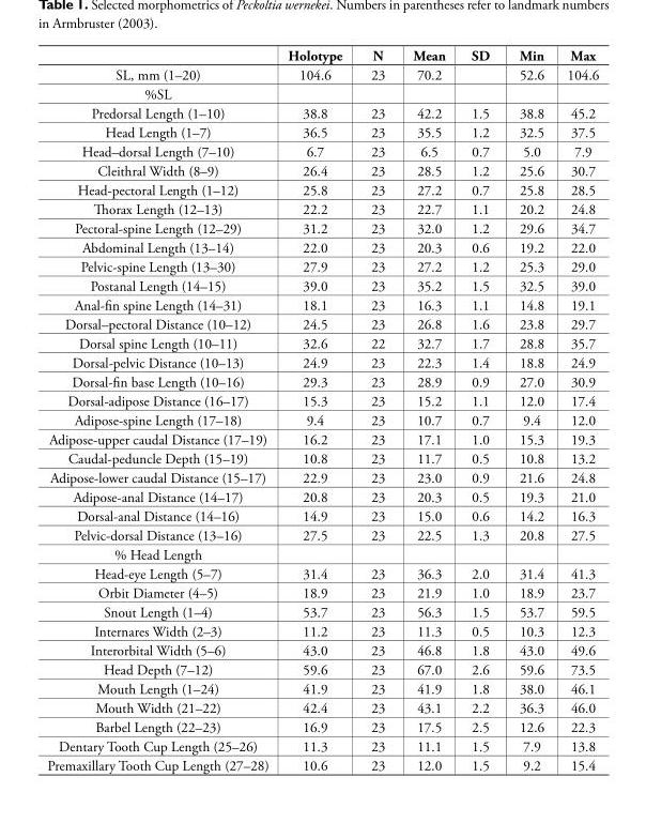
<table><thead><tr><td></td><td>Holotype</td><td>N</td><td>Mean</td><td>SD</td><td>Min</td><td>Max</td></tr></thead><tbody><tr><td>SL, mm (1–20)</td><td>104.6</td><td>23</td><td>70.2</td><td></td><td>52.6</td><td>104.6</td></tr><tr><td colspan="7">%SL</td></tr><tr><td>Predorsal Length (1–10)</td><td>38.8</td><td>23</td><td>42.2</td><td>1.5</td><td>38.8</td><td>45.2</td></tr><tr><td>Head Length (1–7)</td><td>36.5</td><td>23</td><td>35.5</td><td>1.2</td><td>32.5</td><td>37.5</td></tr><tr><td>Head–dorsal Length (7–10)</td><td>6.7</td><td>23</td><td>6.5</td><td>0.7</td><td>5.0</td><td>7.9</td></tr><tr><td>Cleithral Width (8–9)</td><td>26.4</td><td>23</td><td>28.5</td><td>1.2</td><td>25.6</td><td>30.7</td></tr><tr><td>Head-pectoral Length (1–12)</td><td>25.8</td><td>23</td><td>27.2</td><td>0.7</td><td>25.8</td><td>28.5</td></tr><tr><td>Thorax Length (12–13)</td><td>22.2</td><td>23</td><td>22.7</td><td>1.1</td><td>20.2</td><td>24.8</td></tr><tr><td>Pectoral-spine Length (12–29)</td><td>31.2</td><td>23</td><td>32.0</td><td>1.2</td><td>29.6</td><td>34.7</td></tr><tr><td>Abdominal Length (13–14)</td><td>22.0</td><td>23</td><td>20.3</td><td>0.6</td><td>19.2</td><td>22.0</td></tr><tr><td>Pelvic-spine Length (13–30)</td><td>27.9</td><td>23</td><td>27.2</td><td>1.2</td><td>25.3</td><td>29.0</td></tr><tr><td>Postanal Length (14–15)</td><td>39.0</td><td>23</td><td>35.2</td><td>1.5</td><td>32.5</td><td>39.0</td></tr><tr><td>Anal-fin spine Length (14–31)</td><td>18.1</td><td>23</td><td>16.3</td><td>1.1</td><td>14.8</td><td>19.1</td></tr><tr><td>Dorsal–pectoral Distance (10–12)</td><td>24.5</td><td>23</td><td>26.8</td><td>1.6</td><td>23.8</td><td>29.7</td></tr><tr><td>Dorsal spine Length (10–11)</td><td>32.6</td><td>22</td><td>32.7</td><td>1.7</td><td>28.8</td><td>35.7</td></tr><tr><td>Dorsal-pelvic Distance (10–13)</td><td>24.9</td><td>23</td><td>22.3</td><td>1.4</td><td>18.8</td><td>24.9</td></tr><tr><td>Dorsal-fin base Length (10–16)</td><td>29.3</td><td>23</td><td>28.9</td><td>0.9</td><td>27.0</td><td>30.9</td></tr><tr><td>Dorsal-adipose Distance (16–17)</td><td>15.3</td><td>23</td><td>15.2</td><td>1.1</td><td>12.0</td><td>17.4</td></tr><tr><td>Adipose-spine Length (17–18)</td><td>9.4</td><td>23</td><td>10.7</td><td>0.7</td><td>9.4</td><td>12.0</td></tr><tr><td>Adipose-upper caudal Distance (17–19)</td><td>16.2</td><td>23</td><td>17.1</td><td>1.0</td><td>15.3</td><td>19.3</td></tr><tr><td>Caudal-peduncle Depth (15–19)</td><td>10.8</td><td>23</td><td>11.7</td><td>0.5</td><td>10.8</td><td>13.2</td></tr><tr><td>Adipose-lower caudal Distance (15–17)</td><td>22.9</td><td>23</td><td>23.0</td><td>0.9</td><td>21.6</td><td>24.8</td></tr><tr><td>Adipose-anal Distance (14–17)</td><td>20.8</td><td>23</td><td>20.3</td><td>0.5</td><td>19.3</td><td>21.0</td></tr><tr><td>Dorsal-anal Distance (14–16)</td><td>14.9</td><td>23</td><td>15.0</td><td>0.6</td><td>14.2</td><td>16.3</td></tr><tr><td>Pelvic-dorsal Distance (13–16)</td><td>27.5</td><td>23</td><td>22.5</td><td>1.3</td><td>20.8</td><td>27.5</td></tr><tr><td colspan="7">% Head Length</td></tr><tr><td>Head-eye Length (5–7)</td><td>31.4</td><td>23</td><td>36.3</td><td>2.0</td><td>31.4</td><td>41.3</td></tr><tr><td>Orbit Diameter (4–5)</td><td>18.9</td><td>23</td><td>21.9</td><td>1.0</td><td>18.9</td><td>23.7</td></tr><tr><td>Snout Length (1–4)</td><td>53.7</td><td>23</td><td>56.3</td><td>1.5</td><td>53.7</td><td>59.5</td></tr><tr><td>Internares Width (2–3)</td><td>11.2</td><td>23</td><td>11.3</td><td>0.5</td><td>10.3</td><td>12.3</td></tr><tr><td>Interorbital Width (5–6)</td><td>43.0</td><td>23</td><td>46.8</td><td>1.8</td><td>43.0</td><td>49.6</td></tr><tr><td>Head Depth (7–12)</td><td>59.6</td><td>23</td><td>67.0</td><td>2.6</td><td>59.6</td><td>73.5</td></tr><tr><td>Mouth Length (1–24)</td><td>41.9</td><td>23</td><td>41.9</td><td>1.8</td><td>38.0</td><td>46.1</td></tr><tr><td>Mouth Width (21–22)</td><td>42.4</td><td>23</td><td>43.1</td><td>2.2</td><td>36.3</td><td>46.0</td></tr><tr><td>Barbel Length (22–23)</td><td>16.9</td><td>23</td><td>17.5</td><td>2.5</td><td>12.6</td><td>22.3</td></tr><tr><td>Dentary Tooth Cup Length (25–26)</td><td>11.3</td><td>23</td><td>11.1</td><td>1.5</td><td>7.9</td><td>13.8</td></tr><tr><td>Premaxillary Tooth Cup Length (27–28)</td><td>10.6</td><td>23</td><td>12.0</td><td>1.5</td><td>9.2</td><td>15.4</td></tr></tbody></table>